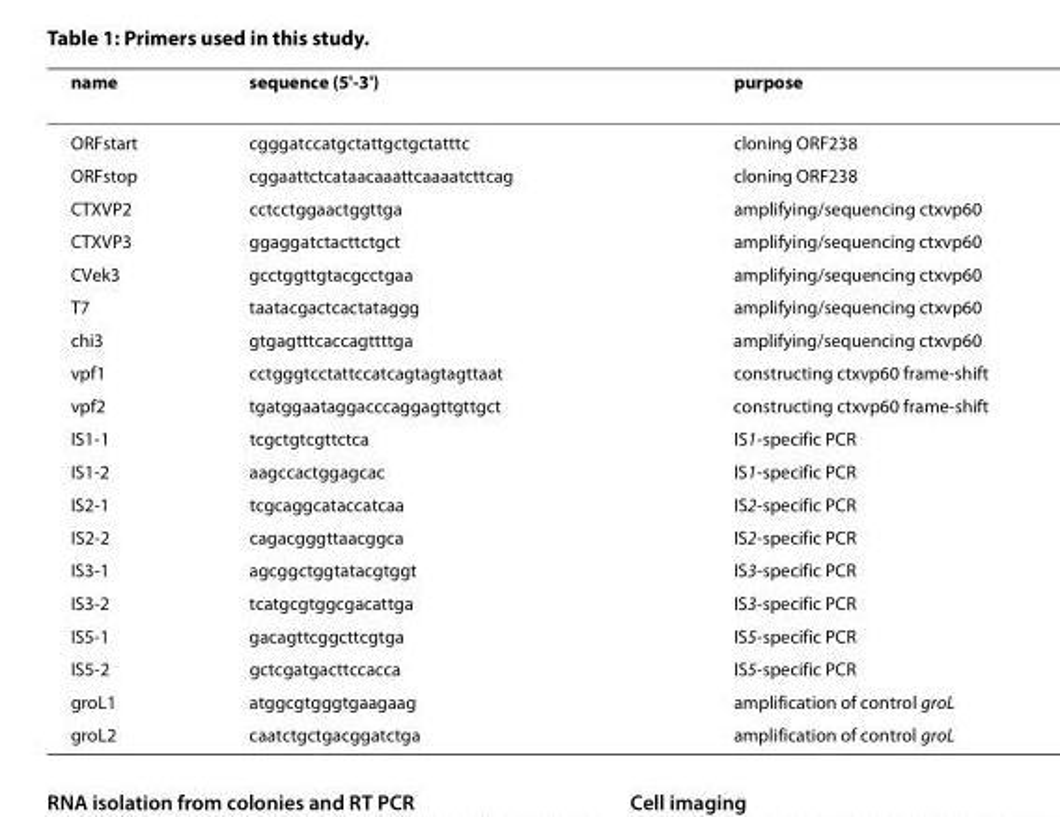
<table><thead><tr><td>name</td><td>sequence (5&#x27;-3&#x27;)</td><td>purpose</td></tr></thead><tbody><tr><td>ORFstart</td><td>cgggatccatgctattgctgctatttc</td><td>cloning ORF238</td></tr><tr><td>ORFstop</td><td>cggaattctcataacaaattcaaaatcttcag</td><td>cloning ORF238</td></tr><tr><td>CTXVP2</td><td>cctcctggaactggttga</td><td>amplifying/sequencing ctxvp60</td></tr><tr><td>CTXVP3</td><td>ggaggatctacttctgct</td><td>amplifying/sequencing ctxvp60</td></tr><tr><td>CVek3</td><td>gcctggttgtacgcctgaa</td><td>amplifying/sequencing ctxvp60</td></tr><tr><td>T7</td><td>taatacgactcactataggg</td><td>amplifying/sequencing ctxvp60</td></tr><tr><td>chi3</td><td>gtgagtttcaccagttttga</td><td>amplifying/sequencing ctxvp60</td></tr><tr><td>vpf1</td><td>cctgggtcctattccatcagtagtagttaat</td><td>constructing ctxvp60 frame-shift</td></tr><tr><td>vpf2</td><td>tgatggaataggacccaggagttgttgct</td><td>constructing ctxvp60 frame-shift</td></tr><tr><td>IS1-1</td><td>tcgctgtcgttctca</td><td>IS1-specific PCR</td></tr><tr><td>IS1-2</td><td>aagccactggagcac</td><td>IS1-specific PCR</td></tr><tr><td>IS2-1</td><td>tcgcaggcataccatcaa</td><td>IS2-specific PCR</td></tr><tr><td>IS2-2</td><td>cagacgggttaacggca</td><td>IS2-specific PCR</td></tr><tr><td>IS3-1</td><td>agcggctggtatacgtggt</td><td>IS3-specific PCR</td></tr><tr><td>IS3-2</td><td>tcatgcgtggcgacattga</td><td>IS3-specific PCR</td></tr><tr><td>IS5-1</td><td>gacagttcggcttcgtga</td><td>IS5-specific PCR</td></tr><tr><td>IS5-2</td><td>gctcgatgacttccacca</td><td>IS5-specific PCR</td></tr><tr><td>groL1</td><td>atggcgtgggtgaagaag</td><td>amplification of control groL</td></tr><tr><td>groL2</td><td>caatctgctgacggatctga</td><td>amplification of control groL</td></tr></tbody></table>